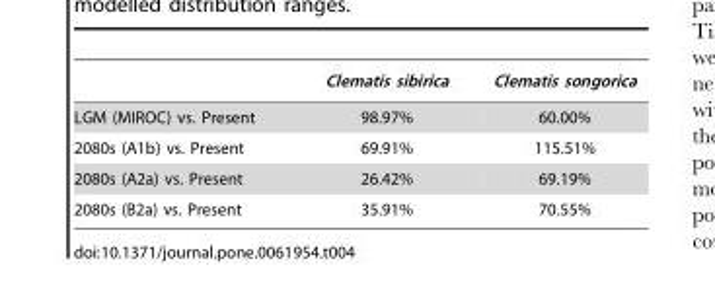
<table><thead><tr><td></td><td>Clematis sibirica</td><td>Clematis songorica</td></tr></thead><tbody><tr><td>LGM (MIROC) vs. Present</td><td>98.97%</td><td>60.00%</td></tr><tr><td>2080s (A1b) vs. Present</td><td>69.91%</td><td>115.51%</td></tr><tr><td>2080s (A2a) vs. Present</td><td>26.42%</td><td>69.19%</td></tr><tr><td>2080s (B2a) vs. Present</td><td>35.91%</td><td>70.55%</td></tr></tbody></table>